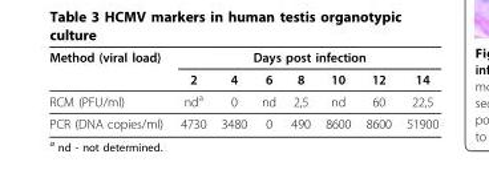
<table><thead><tr><td rowspan="2">Method (viral load)</td><td colspan="7">Days post infection</td></tr><tr><td>2</td><td>4</td><td>6</td><td>8</td><td>10</td><td>12</td><td>14</td></tr></thead><tbody><tr><td>RCM (PFU/ml)</td><td>nd<sup>a</sup></td><td>0</td><td>nd</td><td>2,5</td><td>nd</td><td>60</td><td>22,5</td></tr><tr><td>PCR (DNA copies/ml)</td><td>4730</td><td>3480</td><td>0</td><td>490</td><td>8600</td><td>8600</td><td>51900</td></tr></tbody></table>